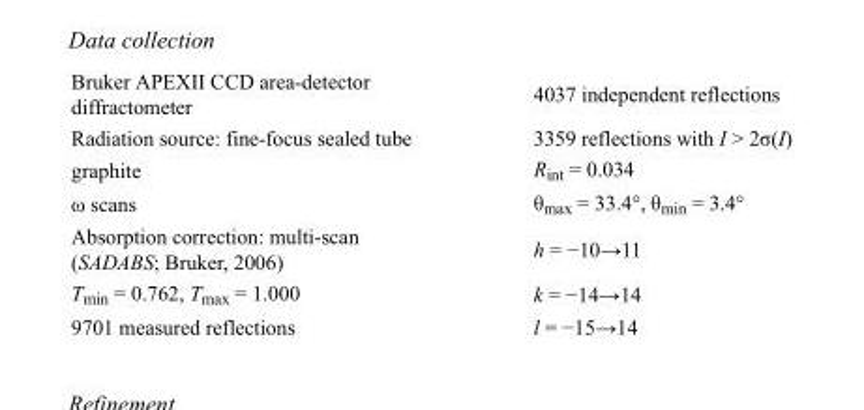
<table><tbody><tr><td>Bruker APEXII CCD area-detector diffractometer</td><td>4037 independent reflections</td></tr><tr><td>Radiation source: fine-focus sealed tube</td><td>3359 reflections with I &gt; 2σ(I)</td></tr><tr><td>graphite</td><td>R<sub>int</sub> = 0.034</td></tr><tr><td>ω scans</td><td>θ<sub>max</sub> = 33.4°, θ<sub>min</sub> = 3.4°</td></tr><tr><td>Absorption correction: multi-scan (SADABS; Bruker, 2006)</td><td>h = −10→11</td></tr><tr><td>T<sub>min</sub> = 0.762, T<sub>max</sub> = 1.000</td><td>k = −14→14</td></tr><tr><td>9701 measured reflections</td><td>l = −15→14</td></tr></tbody></table>